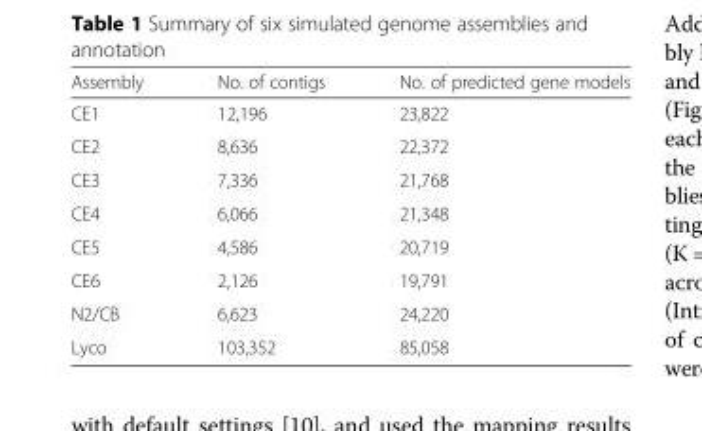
<table><thead><tr><td>Assembly</td><td>No. of contigs</td><td>No. of predicted gene models</td></tr></thead><tbody><tr><td>CE1</td><td>12,196</td><td>23,822</td></tr><tr><td>CE2</td><td>8,636</td><td>22,372</td></tr><tr><td>CE3</td><td>7,336</td><td>21,768</td></tr><tr><td>CE4</td><td>6,066</td><td>21,348</td></tr><tr><td>CE5</td><td>4,586</td><td>20,719</td></tr><tr><td>CE6</td><td>2,126</td><td>19,791</td></tr><tr><td>N2/CB</td><td>6,623</td><td>24,220</td></tr><tr><td>Lyco</td><td>103,352</td><td>85,058</td></tr></tbody></table>